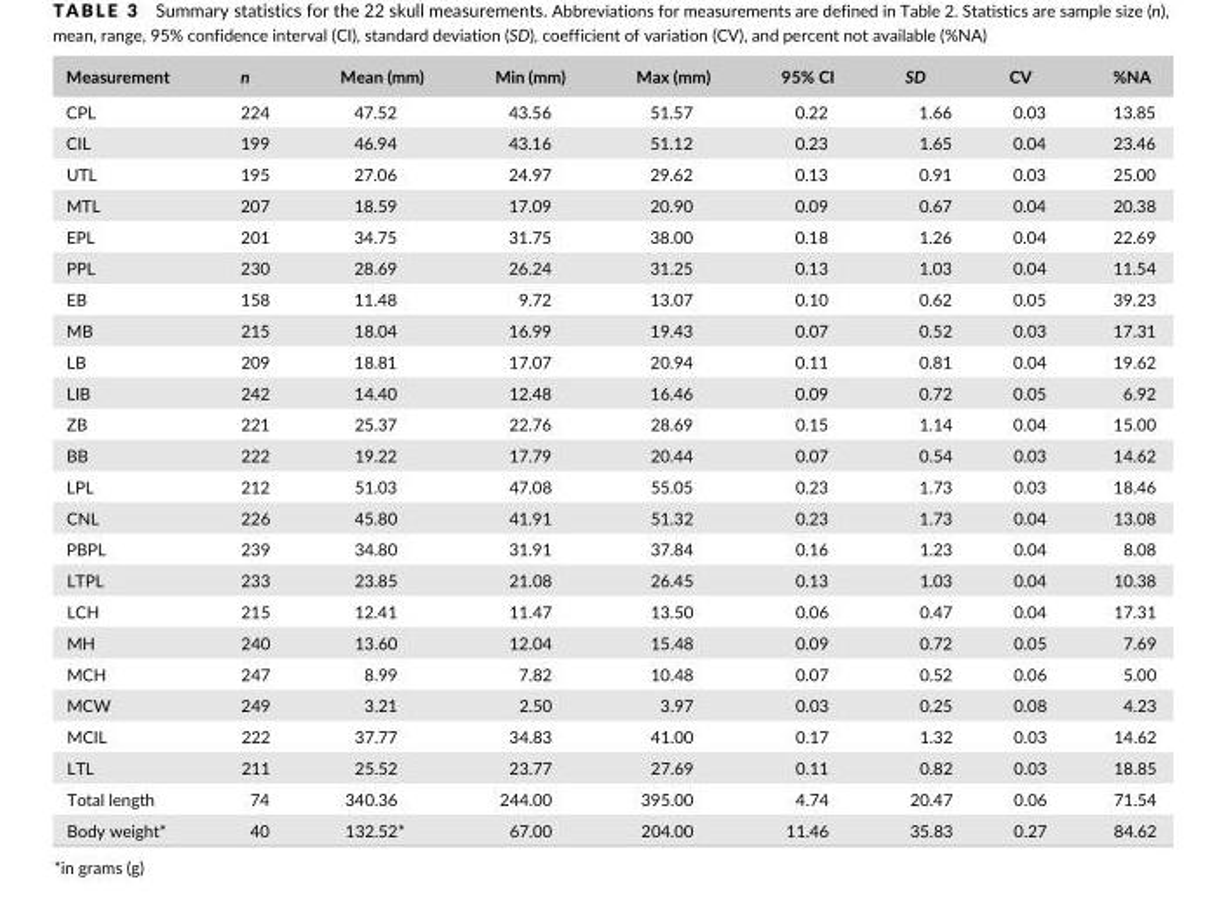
<table><thead><tr><td>Measurement</td><td>n</td><td>Mean (mm)</td><td>Min (mm)</td><td>Max (mm)</td><td>95% CI</td><td>SD</td><td>CV</td><td>%NA</td></tr></thead><tbody><tr><td>CPL</td><td>224</td><td>47.52</td><td>43.56</td><td>51.57</td><td>0.22</td><td>1.66</td><td>0.03</td><td>13.85</td></tr><tr><td>CIL</td><td>199</td><td>46.94</td><td>43.16</td><td>51.12</td><td>0.23</td><td>1.65</td><td>0.04</td><td>23.46</td></tr><tr><td>UTL</td><td>195</td><td>27.06</td><td>24.97</td><td>29.62</td><td>0.13</td><td>0.91</td><td>0.03</td><td>25.00</td></tr><tr><td>MTL</td><td>207</td><td>18.59</td><td>17.09</td><td>20.90</td><td>0.09</td><td>0.67</td><td>0.04</td><td>20.38</td></tr><tr><td>EPL</td><td>201</td><td>34.75</td><td>31.75</td><td>38.00</td><td>0.18</td><td>1.26</td><td>0.04</td><td>22.69</td></tr><tr><td>PPL</td><td>230</td><td>28.69</td><td>26.24</td><td>31.25</td><td>0.13</td><td>1.03</td><td>0.04</td><td>11.54</td></tr><tr><td>EB</td><td>158</td><td>11.48</td><td>9.72</td><td>13.07</td><td>0.10</td><td>0.62</td><td>0.05</td><td>39.23</td></tr><tr><td>MB</td><td>215</td><td>18.04</td><td>16.99</td><td>19.43</td><td>0.07</td><td>0.52</td><td>0.03</td><td>17.31</td></tr><tr><td>LB</td><td>209</td><td>18.81</td><td>17.07</td><td>20.94</td><td>0.11</td><td>0.81</td><td>0.04</td><td>19.62</td></tr><tr><td>LIB</td><td>242</td><td>14.40</td><td>12.48</td><td>16.46</td><td>0.09</td><td>0.72</td><td>0.05</td><td>6.92</td></tr><tr><td>ZB</td><td>221</td><td>25.37</td><td>22.76</td><td>28.69</td><td>0.15</td><td>1.14</td><td>0.04</td><td>15.00</td></tr><tr><td>BB</td><td>222</td><td>19.22</td><td>17.79</td><td>20.44</td><td>0.07</td><td>0.54</td><td>0.03</td><td>14.62</td></tr><tr><td>LPL</td><td>212</td><td>51.03</td><td>47.08</td><td>55.05</td><td>0.23</td><td>1.73</td><td>0.03</td><td>18.46</td></tr><tr><td>CNL</td><td>226</td><td>45.80</td><td>41.91</td><td>51.32</td><td>0.23</td><td>1.73</td><td>0.04</td><td>13.08</td></tr><tr><td>PBPL</td><td>239</td><td>34.80</td><td>31.91</td><td>37.84</td><td>0.16</td><td>1.23</td><td>0.04</td><td>8.08</td></tr><tr><td>LTPL</td><td>233</td><td>23.85</td><td>21.08</td><td>26.45</td><td>0.13</td><td>1.03</td><td>0.04</td><td>10.38</td></tr><tr><td>LCH</td><td>215</td><td>12.41</td><td>11.47</td><td>13.50</td><td>0.06</td><td>0.47</td><td>0.04</td><td>17.31</td></tr><tr><td>MH</td><td>240</td><td>13.60</td><td>12.04</td><td>15.48</td><td>0.09</td><td>0.72</td><td>0.05</td><td>7.69</td></tr><tr><td>MCH</td><td>247</td><td>8.99</td><td>7.82</td><td>10.48</td><td>0.07</td><td>0.52</td><td>0.06</td><td>5.00</td></tr><tr><td>MCW</td><td>249</td><td>3.21</td><td>2.50</td><td>3.97</td><td>0.03</td><td>0.25</td><td>0.08</td><td>4.23</td></tr><tr><td>MCIL</td><td>222</td><td>37.77</td><td>34.83</td><td>41.00</td><td>0.17</td><td>1.32</td><td>0.03</td><td>14.62</td></tr><tr><td>LTL</td><td>211</td><td>25.52</td><td>23.77</td><td>27.69</td><td>0.11</td><td>0.82</td><td>0.03</td><td>18.85</td></tr><tr><td>Total length</td><td>74</td><td>340.36</td><td>244.00</td><td>395.00</td><td>4.74</td><td>20.47</td><td>0.06</td><td>71.54</td></tr><tr><td>Body weight*</td><td>40</td><td>132.52*</td><td>67.00</td><td>204.00</td><td>11.46</td><td>35.83</td><td>0.27</td><td>84.62</td></tr></tbody></table>